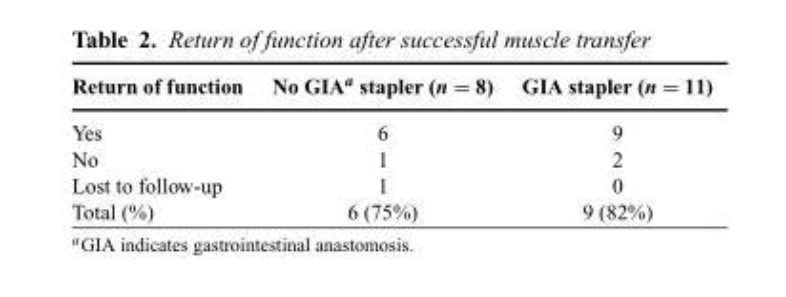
<table><thead><tr><td>Return of function</td><td>No GIA<sup>a</sup> stapler (n = 8)</td><td>GIA stapler (n = 11)</td></tr></thead><tbody><tr><td>Yes</td><td>6</td><td>9</td></tr><tr><td>No</td><td>1</td><td>2</td></tr><tr><td>Lost to follow-up</td><td>1</td><td>0</td></tr><tr><td>Total (%)</td><td>6 (75%)</td><td>9 (82%)</td></tr></tbody></table>